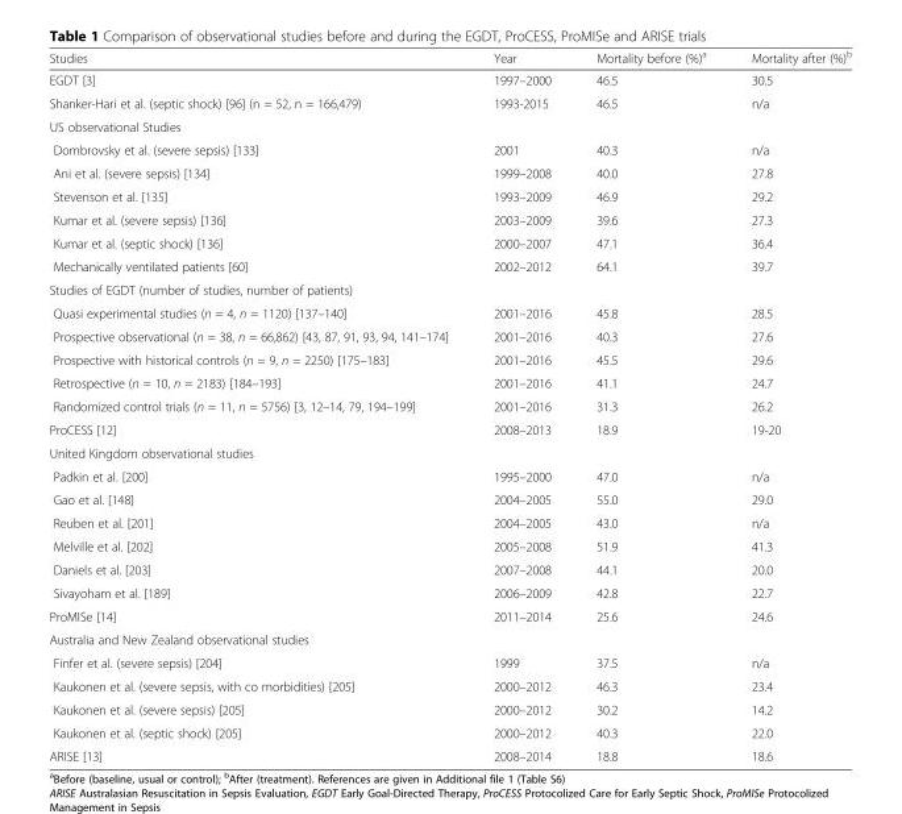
<table><thead><tr><td>Studies</td><td>Year</td><td>Mortality before (%)<sup>a</sup></td><td>Mortality after (%)<sup>b</sup></td></tr></thead><tbody><tr><td>EGDT [3]</td><td>1997–2000</td><td>46.5</td><td>30.5</td></tr><tr><td>Shanker-Hari et al. (septic shock) [96] (n = 52, n = 166,479)</td><td>1993-2015</td><td>46.5</td><td>n/a</td></tr><tr><td colspan="4">US observational Studies</td></tr><tr><td>Dombrovsky et al. (severe sepsis) [133]</td><td>2001</td><td>40.3</td><td>n/a</td></tr><tr><td>Ani et al. (severe sepsis) [134]</td><td>1999–2008</td><td>40.0</td><td>27.8</td></tr><tr><td>Stevenson et al. [135]</td><td>1993–2009</td><td>46.9</td><td>29.2</td></tr><tr><td>Kumar et al. (severe sepsis) [136]</td><td>2003–2009</td><td>39.6</td><td>27.3</td></tr><tr><td>Kumar et al. (septic shock) [136]</td><td>2000–2007</td><td>47.1</td><td>36.4</td></tr><tr><td>Mechanically ventilated patients [60]</td><td>2002–2012</td><td>64.1</td><td>39.7</td></tr><tr><td colspan="4">Studies of EGDT (number of studies, number of patients)</td></tr><tr><td>Quasi experimental studies (n = 4, n = 1120) [137–140]</td><td>2001–2016</td><td>45.8</td><td>28.5</td></tr><tr><td>Prospective observational (n = 38, n = 66,862) [43, 87, 91, 93, 94, 141–174]</td><td>2001–2016</td><td>40.3</td><td>27.6</td></tr><tr><td>Prospective with historical controls (n = 9, n = 2250) [175–183]</td><td>2001–2016</td><td>45.5</td><td>29.6</td></tr><tr><td>Retrospective (n = 10, n = 2183) [184–193]</td><td>2001–2016</td><td>41.1</td><td>24.7</td></tr><tr><td>Randomized control trials (n = 11, n = 5756) [3, 12–14, 79, 194–199]</td><td>2001–2016</td><td>31.3</td><td>26.2</td></tr><tr><td>ProCESS [12]</td><td>2008–2013</td><td>18.9</td><td>19-20</td></tr><tr><td colspan="4">United Kingdom observational studies</td></tr><tr><td>Padkin et al. [200]</td><td>1995–2000</td><td>47.0</td><td>n/a</td></tr><tr><td>Gao et al. [148]</td><td>2004–2005</td><td>55.0</td><td>29.0</td></tr><tr><td>Reuben et al. [201]</td><td>2004–2005</td><td>43.0</td><td>n/a</td></tr><tr><td>Melville et al. [202]</td><td>2005–2008</td><td>51.9</td><td>41.3</td></tr><tr><td>Daniels et al. [203]</td><td>2007–2008</td><td>44.1</td><td>20.0</td></tr><tr><td>Sivayoham et al. [189]</td><td>2006–2009</td><td>42.8</td><td>22.7</td></tr><tr><td>ProMISe [14]</td><td>2011–2014</td><td>25.6</td><td>24.6</td></tr><tr><td colspan="4">Australia and New Zealand observational studies</td></tr><tr><td>Finfer et al. (severe sepsis) [204]</td><td>1999</td><td>37.5</td><td>n/a</td></tr><tr><td>Kaukonen et al. (severe sepsis, with co morbidities) [205]</td><td>2000–2012</td><td>46.3</td><td>23.4</td></tr><tr><td>Kaukonen et al. (severe sepsis) [205]</td><td>2000–2012</td><td>30.2</td><td>14.2</td></tr><tr><td>Kaukonen et al. (septic shock) [205]</td><td>2000–2012</td><td>40.3</td><td>22.0</td></tr><tr><td>ARISE [13]</td><td>2008–2014</td><td>18.8</td><td>18.6</td></tr></tbody></table>